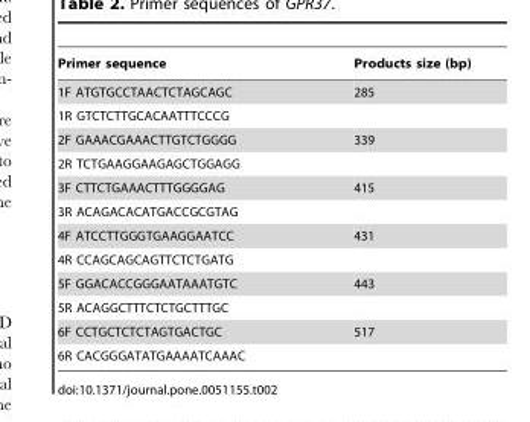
<table><thead><tr><td>Primer sequence</td><td>Products size (bp)</td></tr></thead><tbody><tr><td>1F ATGTGCCTAACTCTAGCAGC</td><td>285</td></tr><tr><td colspan="2">1R GTCTCTTGCACAATTTCCCG</td></tr><tr><td>2F GAAACGAAACTTGTCTGGGG</td><td>339</td></tr><tr><td colspan="2">2R TCTGAAGGAAGAGCTGGAGG</td></tr><tr><td>3F CTTCTGAAACTTTGGGGAG</td><td>415</td></tr><tr><td colspan="2">3R ACAGACACATGACCGCGTAG</td></tr><tr><td>4F ATCCTTGGGTGAAGGAATCC</td><td>431</td></tr><tr><td colspan="2">4R CCAGCAGCAGTTCTCTGATG</td></tr><tr><td>5F GGACACCGGGAATAAATGTC</td><td>443</td></tr><tr><td colspan="2">5R ACAGGCTTTCTCTGCTTTGC</td></tr><tr><td>6F CCTGCTCTCTAGTGACTGC</td><td>517</td></tr><tr><td>6R CACGGGATATGAAAATCAAAC</td><td></td></tr></tbody></table>